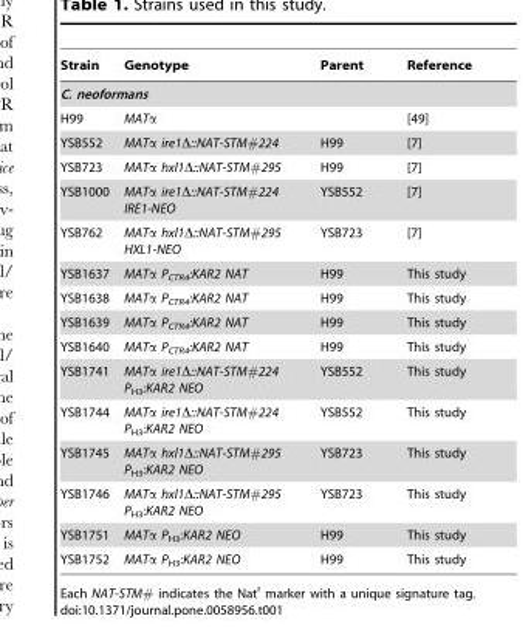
<table><thead><tr><td>Strain</td><td>Genotype</td><td>Parent</td><td>Reference</td></tr></thead><tbody><tr><td colspan="4">C. neoformans</td></tr><tr><td>H99</td><td>MATα</td><td></td><td>[49]</td></tr><tr><td>YSB552</td><td>MATα ire1Δ::NAT-STM#224</td><td>H99</td><td>[7]</td></tr><tr><td>YSB723</td><td>MATα hxl1Δ::NAT-STM#295</td><td>H99</td><td>[7]</td></tr><tr><td>YSB1000</td><td>MATα ire1Δ::NAT-STM#224 IRE1-NEO</td><td>YSB552</td><td>[7]</td></tr><tr><td>YSB762</td><td>MATα hxl1Δ::NAT-STM#295 HXL1-NEO</td><td>YSB723</td><td>[7]</td></tr><tr><td>YSB1637</td><td>MATα P<sub>CTR4</sub>:KAR2 NAT</td><td>H99</td><td>This study</td></tr><tr><td>YSB1638</td><td>MATα P<sub>CTR4</sub>:KAR2 NAT</td><td>H99</td><td>This study</td></tr><tr><td>YSB1639</td><td>MATα P<sub>CTR4</sub>:KAR2 NAT</td><td>H99</td><td>This study</td></tr><tr><td>YSB1640</td><td>MATα P<sub>CTR4</sub>:KAR2 NAT</td><td>H99</td><td>This study</td></tr><tr><td>YSB1741</td><td>MATα ire1Δ::NAT-STM#224 P<sub>H3</sub>:KAR2 NEO</td><td>YSB552</td><td>This study</td></tr><tr><td>YSB1744</td><td>MATα ire1Δ::NAT-STM#224 P<sub>H3</sub>:KAR2 NEO</td><td>YSB552</td><td>This study</td></tr><tr><td>YSB1745</td><td>MATα hxl1Δ::NAT-STM#295 P<sub>H3</sub>:KAR2 NEO</td><td>YSB723</td><td>This study</td></tr><tr><td>YSB1746</td><td>MATα hxl1Δ::NAT-STM#295 P<sub>H3</sub>:KAR2 NEO</td><td>YSB723</td><td>This study</td></tr><tr><td>YSB1751</td><td>MATα P<sub>H3</sub>:KAR2 NEO</td><td>H99</td><td>This study</td></tr><tr><td>YSB1752</td><td>MATα P<sub>H3</sub>:KAR2 NEO</td><td>H99</td><td>This study</td></tr></tbody></table>